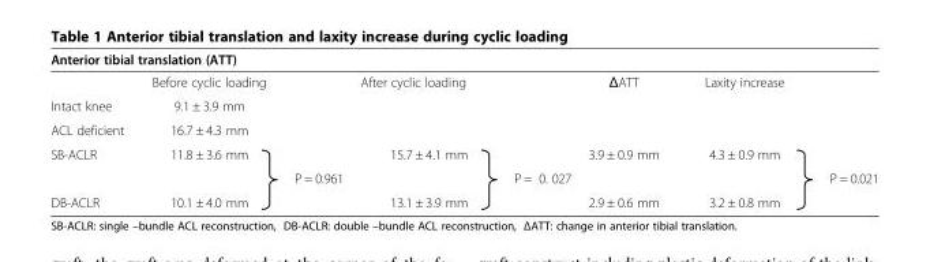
<table><thead><tr><td colspan="4">Anterior tibial translation (ATT)</td><td rowspan="2"></td><td rowspan="2">ΔATT</td><td rowspan="2">Laxity increase</td><td rowspan="2"></td></tr><tr><td></td><td>Before cyclic loading</td><td></td><td>After cyclic loading</td></tr></thead><tbody><tr><td>Intact knee</td><td>9.1 ± 3.9 mm</td><td></td><td></td><td></td><td></td><td></td><td></td></tr><tr><td>ACL deficient</td><td>16.7 ± 4.3 mm</td><td></td><td></td><td></td><td></td><td></td><td></td></tr><tr><td rowspan="2">SB-ACLR</td><td>11.8 ± 3.6 mm</td><td></td><td>15.7 ± 4.1 mm</td><td></td><td>3.9 ± 0.9 mm</td><td>4.3 ± 0.9 mm</td><td></td></tr><tr><td></td><td>P = 0.961</td><td></td><td>P = 0. 027</td><td></td><td></td><td>P = 0.021</td></tr><tr><td>DB-ACLR</td><td>10.1 ± 4.0 mm</td><td></td><td>13.1 ± 3.9 mm</td><td></td><td>2.9 ± 0.6 mm</td><td>3.2 ± 0.8 mm</td><td></td></tr></tbody></table>